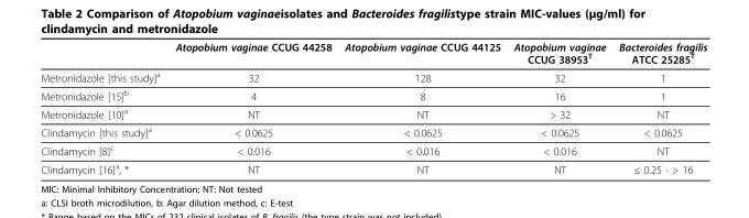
<table><thead><tr><td></td><td>Atopobium vaginae CCUG 44258</td><td>Atopobium vaginae CCUG 44125</td><td>Atopobium vaginae CCUG 38953<sup>T</sup></td><td>Bacteroides fragilis ATCC 25285<sup>T</sup></td></tr></thead><tbody><tr><td>Metronidazole [this study]<sup>a</sup></td><td>32</td><td>128</td><td>32</td><td>1</td></tr><tr><td>Metronidazole [15]<sup>b</sup></td><td>4</td><td>8</td><td>16</td><td>1</td></tr><tr><td>Metronidazole [10]<sup>a</sup></td><td>NT</td><td>NT</td><td>&gt; 32</td><td>NT</td></tr><tr><td>Clindamycin [this study]<sup>a</sup></td><td>&lt; 0.0625</td><td>&lt; 0.0625</td><td>&lt; 0.0625</td><td>&lt; 0.0625</td></tr><tr><td>Clindamycin [8]<sup>c</sup></td><td>&lt; 0.016</td><td>&lt; 0.016</td><td>&lt; 0.016</td><td>NT</td></tr><tr><td>Clindamycin [16]<sup>a</sup>, *</td><td>NT</td><td>NT</td><td>NT</td><td>≤ 0.25 - &gt; 16</td></tr></tbody></table>